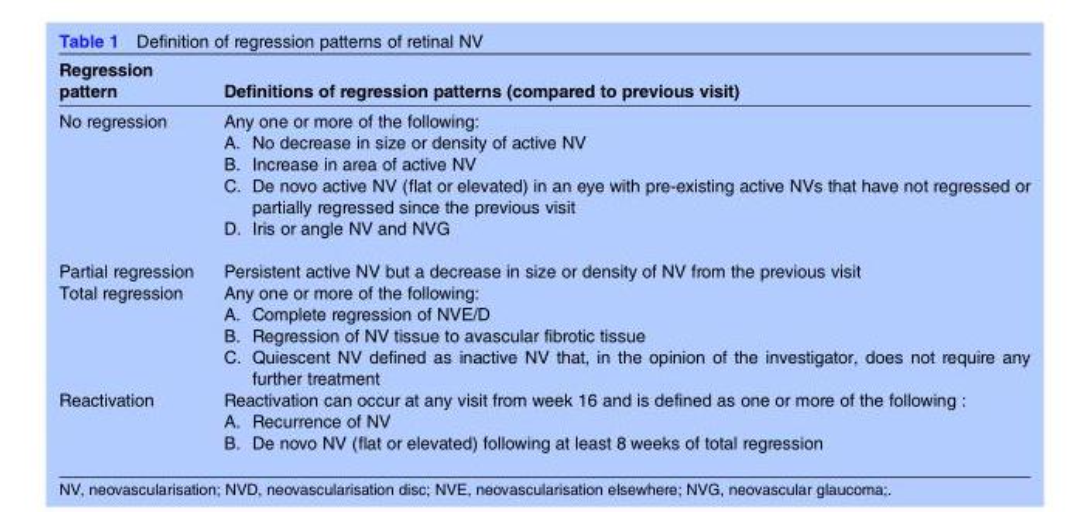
<table><thead><tr><td>Regression pattern</td><td>Definitions of regression patterns (compared to previous visit)</td></tr></thead><tbody><tr><td>No regression</td><td>Any one or more of the following: A. No decrease in size or density of active NV B. Increase in area of active NV C. De novo active NV (flat or elevated) in an eye with pre-existing active NVs that have not regressed or partially regressed since the previous visit D. Iris or angle NV and NVG</td></tr><tr><td>Partial regression</td><td>Persistent active NV but a decrease in size or density of NV from the previous visit</td></tr><tr><td>Total regression</td><td>Any one or more of the following: A. Complete regression of NVE/D B. Regression of NV tissue to avascular fibrotic tissue C. Quiescent NV defined as inactive NV that, in the opinion of the investigator, does not require any further treatment</td></tr><tr><td>Reactivation</td><td>Reactivation can occur at any visit from week 16 and is defined as one or more of the following : A. Recurrence of NV B. De novo NV (flat or elevated) following at least 8 weeks of total regression</td></tr></tbody></table>